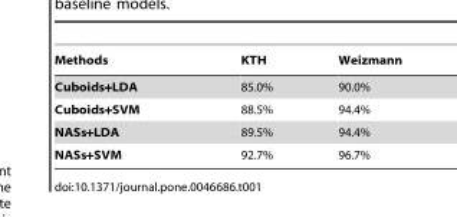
<table><thead><tr><td>Methods</td><td>KTH</td><td>Weizmann</td></tr></thead><tbody><tr><td>Cuboids+LDA</td><td>85.0%</td><td>90.0%</td></tr><tr><td>Cuboids+SVM</td><td>88.5%</td><td>94.4%</td></tr><tr><td>NASs+LDA</td><td>89.5%</td><td>94.4%</td></tr><tr><td>NASs+SVM</td><td>92.7%</td><td>96.7%</td></tr></tbody></table>